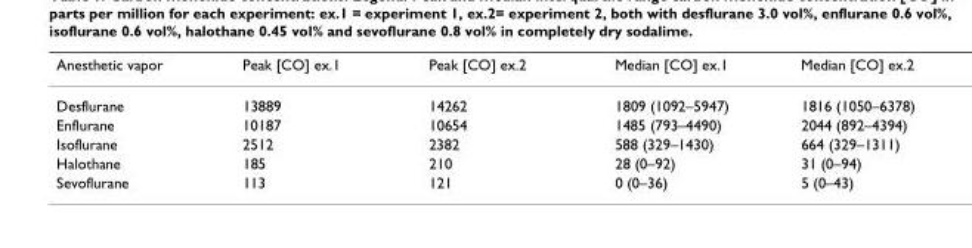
<table><thead><tr><td>Anesthetic vapor</td><td>Peak [CO] ex.1</td><td>Peak [CO] ex.2</td><td>Median [CO] ex.1</td><td>Median [CO] ex.2</td></tr></thead><tbody><tr><td>Desflurane</td><td>13889</td><td>14262</td><td>1809 (1092–5947)</td><td>1816 (1050–6378)</td></tr><tr><td>Enflurane</td><td>10187</td><td>10654</td><td>1485 (793–4490)</td><td>2044 (892–4394)</td></tr><tr><td>Isoflurane</td><td>2512</td><td>2382</td><td>588 (329–1430)</td><td>664 (329–1311)</td></tr><tr><td>Halothane</td><td>185</td><td>210</td><td>28 (0–92)</td><td>31 (0–94)</td></tr><tr><td>Sevoflurane</td><td>113</td><td>121</td><td>0 (0–36)</td><td>5 (0–43)</td></tr></tbody></table>